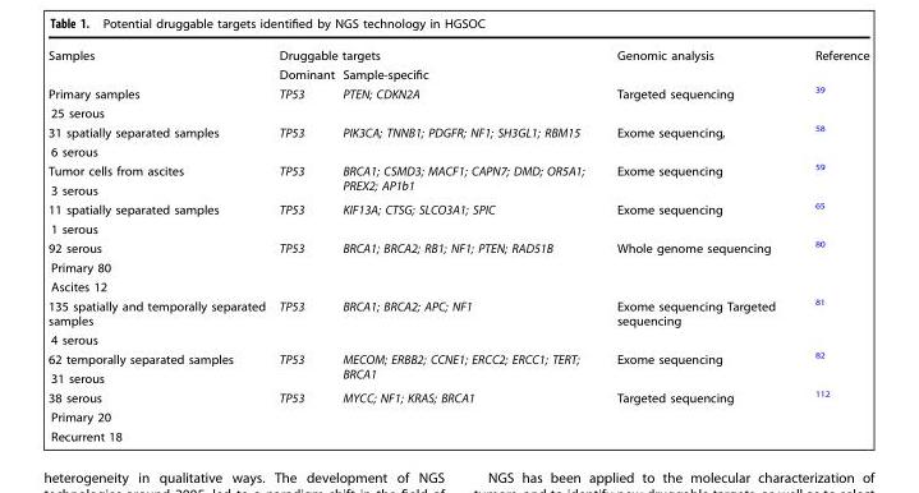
<table><tbody><tr><td rowspan="2">Samples</td><td colspan="2">Druggable targets</td><td rowspan="2">Genomic analysis</td><td rowspan="2">Reference</td></tr><tr><td>Dominant</td><td>Sample-specific</td></tr><tr><td>Primary samples</td><td rowspan="2">TP53</td><td rowspan="2">PTEN; CDKN2A</td><td rowspan="2">Targeted sequencing</td><td rowspan="2"><sup>39</sup></td></tr><tr><td>25 serous</td></tr><tr><td>31 spatially separated samples</td><td rowspan="2">TP53</td><td rowspan="2">PIK3CA; TNNB1; PDGFR; NF1; SH3GL1; RBM15</td><td rowspan="2">Exome sequencing,</td><td rowspan="2"><sup>58</sup></td></tr><tr><td>6 serous</td></tr><tr><td>Tumor cells from ascites</td><td rowspan="2">TP53</td><td rowspan="2">BRCA1; CSMD3; MACF1; CAPN7; DMD; OR5A1; PREX2; AP1b1</td><td rowspan="2">Exome sequencing</td><td rowspan="2"><sup>59</sup></td></tr><tr><td>3 serous</td></tr><tr><td>11 spatially separated samples</td><td rowspan="2">TP53</td><td rowspan="2">KIF13A; CTSG; SLCO3A1; SPIC</td><td rowspan="2">Exome sequencing</td><td rowspan="2"><sup>65</sup></td></tr><tr><td>1 serous</td></tr><tr><td>92 serous</td><td rowspan="3">TP53</td><td rowspan="3">BRCA1; BRCA2; RB1; NF1; PTEN; RAD51B</td><td rowspan="3">Whole genome sequencing</td><td rowspan="3"><sup>80</sup></td></tr><tr><td>Primary 80</td></tr><tr><td>Ascites 12</td></tr><tr><td>135 spatially and temporally separated samples</td><td rowspan="2">TP53</td><td rowspan="2">BRCA1; BRCA2; APC; NF1</td><td rowspan="2">Exome sequencing Targeted sequencing</td><td rowspan="2"><sup>81</sup></td></tr><tr><td>4 serous</td></tr><tr><td>62 temporally separated samples</td><td rowspan="2">TP53</td><td rowspan="2">MECOM; ERBB2; CCNE1; ERCC2; ERCC1; TERT; BRCA1</td><td rowspan="2">Exome sequencing</td><td rowspan="2"><sup>82</sup></td></tr><tr><td>31 serous</td></tr><tr><td>38 serous</td><td rowspan="3">TP53</td><td rowspan="3">MYCC; NF1; KRAS; BRCA1</td><td rowspan="3">Targeted sequencing</td><td rowspan="3"><sup>112</sup></td></tr><tr><td>Primary 20</td></tr><tr><td>Recurrent 18</td></tr></tbody></table>